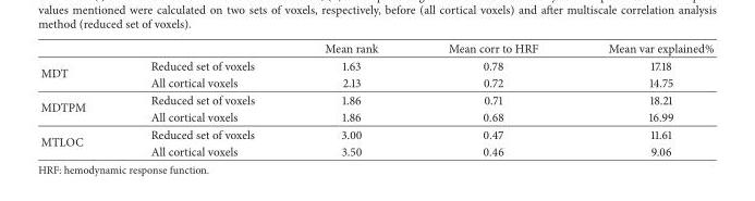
<table><thead><tr><td></td><td></td><td>Mean rank</td><td>Mean corr to HRF</td><td>Mean var explained%</td></tr></thead><tbody><tr><td rowspan="2">MDT</td><td>Reduced set of voxels</td><td>1.63</td><td>0.78</td><td>17.18</td></tr><tr><td>All cortical voxels</td><td>2.13</td><td>0.72</td><td>14.75</td></tr><tr><td rowspan="2">MDTPM</td><td>Reduced set of voxels</td><td>1.86</td><td>0.71</td><td>18.21</td></tr><tr><td>All cortical voxels</td><td>1.86</td><td>0.68</td><td>16.99</td></tr><tr><td rowspan="2">MTLOC</td><td>Reduced set of voxels</td><td>3.00</td><td>0.47</td><td>11.61</td></tr><tr><td>All cortical voxels</td><td>3.50</td><td>0.46</td><td>9.06</td></tr></tbody></table>